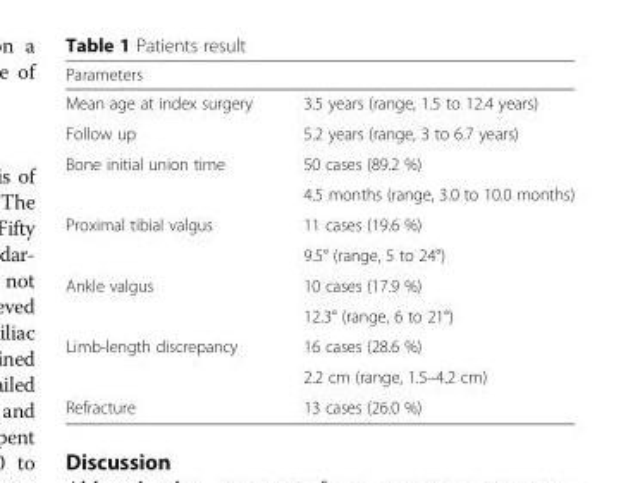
<table><thead><tr><td colspan="2">Parameters</td></tr><tr><td>Mean age at index surgery</td><td>3.5 years (range, 1.5 to 12.4 years)</td></tr></thead><tbody><tr><td>Follow up</td><td>5.2 years (range, 3 to 6.7 years)</td></tr><tr><td rowspan="2">Bone initial union time</td><td>50 cases (89.2 %)</td></tr><tr><td>4.5 months (range, 3.0 to 10.0 months)</td></tr><tr><td rowspan="2">Proximal tibial valgus</td><td>11 cases (19.6 %)</td></tr><tr><td>9.5° (range, 5 to 24°)</td></tr><tr><td rowspan="2">Ankle valgus</td><td>10 cases (17.9 %)</td></tr><tr><td>12.3° (range, 6 to 21°)</td></tr><tr><td rowspan="2">Limb-length discrepancy</td><td>16 cases (28.6 %)</td></tr><tr><td>2.2 cm (range, 1.5–4.2 cm)</td></tr><tr><td>Refracture</td><td>13 cases (26.0 %)</td></tr></tbody></table>